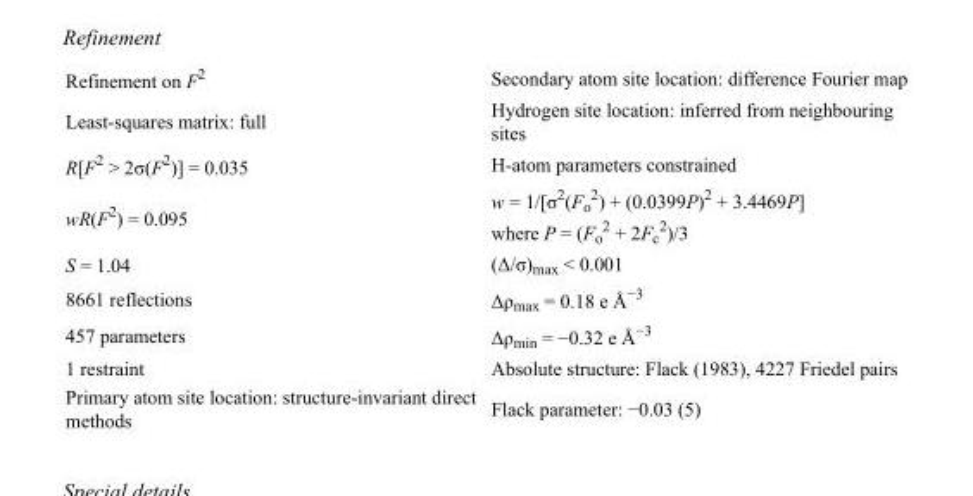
<table><tbody><tr><td>Refinement on F<sup>2</sup></td><td>Secondary atom site location: difference Fourier map</td></tr><tr><td>Least-squares matrix: full</td><td>Hydrogen site location: inferred from neighbouring sites</td></tr><tr><td>R[F<sup>2</sup> &gt; 2σ(F<sup>2</sup>)] = 0.035</td><td>H-atom parameters constrained</td></tr><tr><td>wR(F<sup>2</sup>) = 0.095</td><td>w = 1/[σ<sup>2</sup>(F<sub>o</sub> <sup>2</sup>) + (0.0399P)<sup>2</sup> + 3.4469P] where P = (F<sub>o</sub> <sup>2</sup> + 2F<sub>c</sub> <sup>2</sup>)/3</td></tr><tr><td>S = 1.04</td><td>(Δ/σ)<sub>max</sub> &lt; 0.001</td></tr><tr><td>8661 reflections</td><td>Δρ<sub>max</sub> = 0.18 e Å<sup>−3</sup></td></tr><tr><td>457 parameters</td><td>Δρ<sub>min</sub> = −0.32 e Å<sup>−3</sup></td></tr><tr><td>1 restraint</td><td>Absolute structure: Flack (1983), 4227 Friedel pairs</td></tr><tr><td>Primary atom site location: structure-invariant direct methods</td><td>Flack parameter: −0.03 (5)</td></tr></tbody></table>